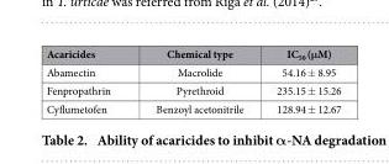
<table><thead><tr><td>Acaricides</td><td>Chemical type</td><td>IC<sub>50</sub> (μM)</td></tr></thead><tbody><tr><td>Abamectin</td><td>Macrolide</td><td>54.16 ± 8.95</td></tr><tr><td>Fenpropathrin</td><td>Pyrethroid</td><td>235.15 ± 15.26</td></tr><tr><td>Cyflumetofen</td><td>Benzoyl acetonitrile</td><td>128.94 ± 12.67</td></tr></tbody></table>